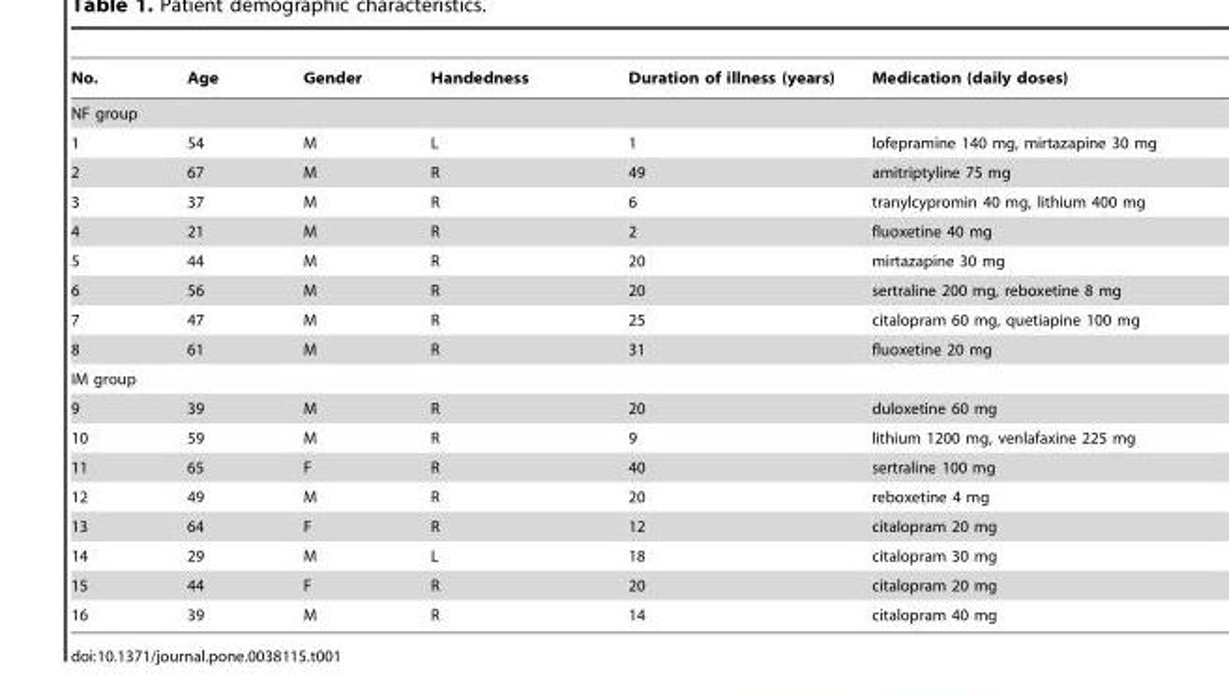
<table><thead><tr><td>No.</td><td>Age</td><td>Gender</td><td>Handedness</td><td>Duration of illness (years)</td><td>Medication (daily doses)</td></tr></thead><tbody><tr><td colspan="6">NF group</td></tr><tr><td>1</td><td>54</td><td>M</td><td>L</td><td>1</td><td>lofepramine 140 mg, mirtazapine 30 mg</td></tr><tr><td>2</td><td>67</td><td>M</td><td>R</td><td>49</td><td>amitriptyline 75 mg</td></tr><tr><td>3</td><td>37</td><td>M</td><td>R</td><td>6</td><td>tranylcypromin 40 mg, lithium 400 mg</td></tr><tr><td>4</td><td>21</td><td>M</td><td>R</td><td>2</td><td>fluoxetine 40 mg</td></tr><tr><td>5</td><td>44</td><td>M</td><td>R</td><td>20</td><td>mirtazapine 30 mg</td></tr><tr><td>6</td><td>56</td><td>M</td><td>R</td><td>20</td><td>sertraline 200 mg, reboxetine 8 mg</td></tr><tr><td>7</td><td>47</td><td>M</td><td>R</td><td>25</td><td>citalopram 60 mg, quetiapine 100 mg</td></tr><tr><td>8</td><td>61</td><td>M</td><td>R</td><td>31</td><td>fluoxetine 20 mg</td></tr><tr><td colspan="6">IM group</td></tr><tr><td>9</td><td>39</td><td>M</td><td>R</td><td>20</td><td>duloxetine 60 mg</td></tr><tr><td>10</td><td>59</td><td>M</td><td>R</td><td>9</td><td>lithium 1200 mg, venlafaxine 225 mg</td></tr><tr><td>11</td><td>65</td><td>F</td><td>R</td><td>40</td><td>sertraline 100 mg</td></tr><tr><td>12</td><td>49</td><td>M</td><td>R</td><td>20</td><td>reboxetine 4 mg</td></tr><tr><td>13</td><td>64</td><td>F</td><td>R</td><td>12</td><td>citalopram 20 mg</td></tr><tr><td>14</td><td>29</td><td>M</td><td>L</td><td>18</td><td>citalopram 30 mg</td></tr><tr><td>15</td><td>44</td><td>F</td><td>R</td><td>20</td><td>citalopram 20 mg</td></tr><tr><td>16</td><td>39</td><td>M</td><td>R</td><td>14</td><td>citalopram 40 mg</td></tr></tbody></table>